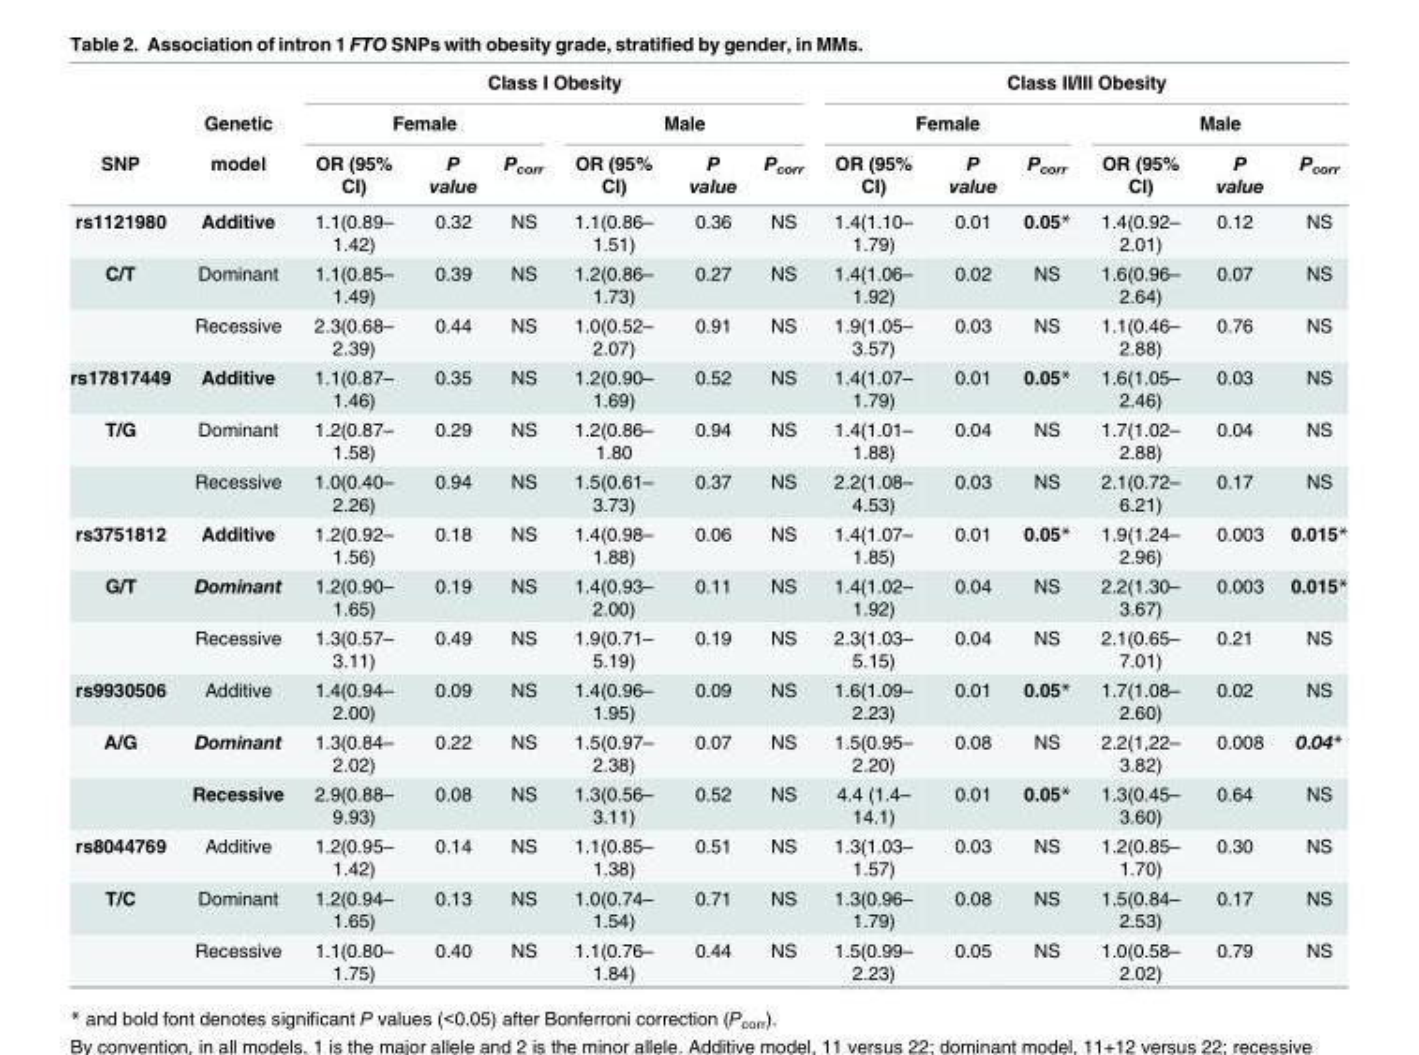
<table><thead><tr><td rowspan="3">SNP</td><td rowspan="3">Genetic model</td><td colspan="6">Class I Obesity</td><td colspan="6">Class II/III Obesity</td></tr><tr><td colspan="3">Female</td><td colspan="3">Male</td><td colspan="3">Female</td><td colspan="3">Male</td></tr><tr><td>OR (95% CI)</td><td>P value</td><td>P<sub>corr</sub></td><td>OR (95% CI)</td><td>P value</td><td>P<sub>corr</sub></td><td>OR (95% CI)</td><td>P value</td><td>P<sub>corr</sub></td><td>OR (95% CI)</td><td>P value</td><td>P<sub>corr</sub></td></tr></thead><tbody><tr><td>rs1121980</td><td>Additive</td><td>1.1(0.89– 1.42)</td><td>0.32</td><td>NS</td><td>1.1(0.86– 1.51)</td><td>0.36</td><td>NS</td><td>1.4(1.10– 1.79)</td><td>0.01</td><td>0.05*</td><td>1.4(0.92– 2.01)</td><td>0.12</td><td>NS</td></tr><tr><td rowspan="2">C/T</td><td>Dominant</td><td>1.1(0.85– 1.49)</td><td>0.39</td><td>NS</td><td>1.2(0.86– 1.73)</td><td>0.27</td><td>NS</td><td>1.4(1.06– 1.92)</td><td>0.02</td><td>NS</td><td>1.6(0.96– 2.64)</td><td>0.07</td><td>NS</td></tr><tr><td>Recessive</td><td>2.3(0.68– 2.39)</td><td>0.44</td><td>NS</td><td>1.0(0.52– 2.07)</td><td>0.91</td><td>NS</td><td>1.9(1.05– 3.57)</td><td>0.03</td><td>NS</td><td>1.1(0.46– 2.88)</td><td>0.76</td><td>NS</td></tr><tr><td>rs17817449</td><td>Additive</td><td>1.1(0.87– 1.46)</td><td>0.35</td><td>NS</td><td>1.2(0.90– 1.69)</td><td>0.52</td><td>NS</td><td>1.4(1.07– 1.79)</td><td>0.01</td><td>0.05*</td><td>1.6(1.05– 2.46)</td><td>0.03</td><td>NS</td></tr><tr><td rowspan="2">T/G</td><td>Dominant</td><td>1.2(0.87– 1.58)</td><td>0.29</td><td>NS</td><td>1.2(0.86– 1.80</td><td>0.94</td><td>NS</td><td>1.4(1.01– 1.88)</td><td>0.04</td><td>NS</td><td>1.7(1.02– 2.88)</td><td>0.04</td><td>NS</td></tr><tr><td>Recessive</td><td>1.0(0.40– 2.26)</td><td>0.94</td><td>NS</td><td>1.5(0.61– 3.73)</td><td>0.37</td><td>NS</td><td>2.2(1.08– 4.53)</td><td>0.03</td><td>NS</td><td>2.1(0.72– 6.21)</td><td>0.17</td><td>NS</td></tr><tr><td>rs3751812</td><td>Additive</td><td>1.2(0.92– 1.56)</td><td>0.18</td><td>NS</td><td>1.4(0.98– 1.88)</td><td>0.06</td><td>NS</td><td>1.4(1.07– 1.85)</td><td>0.01</td><td>0.05*</td><td>1.9(1.24– 2.96)</td><td>0.003</td><td>0.015*</td></tr><tr><td rowspan="2">G/T</td><td>Dominant</td><td>1.2(0.90– 1.65)</td><td>0.19</td><td>NS</td><td>1.4(0.93– 2.00)</td><td>0.11</td><td>NS</td><td>1.4(1.02– 1.92)</td><td>0.04</td><td>NS</td><td>2.2(1.30– 3.67)</td><td>0.003</td><td>0.015*</td></tr><tr><td>Recessive</td><td>1.3(0.57– 3.11)</td><td>0.49</td><td>NS</td><td>1.9(0.71– 5.19)</td><td>0.19</td><td>NS</td><td>2.3(1.03– 5.15)</td><td>0.04</td><td>NS</td><td>2.1(0.65– 7.01)</td><td>0.21</td><td>NS</td></tr><tr><td>rs9930506</td><td>Additive</td><td>1.4(0.94– 2.00)</td><td>0.09</td><td>NS</td><td>1.4(0.96– 1.95)</td><td>0.09</td><td>NS</td><td>1.6(1.09– 2.23)</td><td>0.01</td><td>0.05*</td><td>1.7(1.08– 2.60)</td><td>0.02</td><td>NS</td></tr><tr><td rowspan="2">A/G</td><td>Dominant</td><td>1.3(0.84– 2.02)</td><td>0.22</td><td>NS</td><td>1.5(0.97– 2.38)</td><td>0.07</td><td>NS</td><td>1.5(0.95– 2.20)</td><td>0.08</td><td>NS</td><td>2.2(1,22– 3.82)</td><td>0.008</td><td>0.04*</td></tr><tr><td>Recessive</td><td>2.9(0.88– 9.93)</td><td>0.08</td><td>NS</td><td>1.3(0.56– 3.11)</td><td>0.52</td><td>NS</td><td>4.4 (1.4– 14.1)</td><td>0.01</td><td>0.05*</td><td>1.3(0.45– 3.60)</td><td>0.64</td><td>NS</td></tr><tr><td>rs8044769</td><td>Additive</td><td>1.2(0.95– 1.42)</td><td>0.14</td><td>NS</td><td>1.1(0.85– 1.38)</td><td>0.51</td><td>NS</td><td>1.3(1.03– 1.57)</td><td>0.03</td><td>NS</td><td>1.2(0.85– 1.70)</td><td>0.30</td><td>NS</td></tr><tr><td rowspan="2">T/C</td><td>Dominant</td><td>1.2(0.94– 1.65)</td><td>0.13</td><td>NS</td><td>1.0(0.74– 1.54)</td><td>0.71</td><td>NS</td><td>1.3(0.96– 1.79)</td><td>0.08</td><td>NS</td><td>1.5(0.84– 2.53)</td><td>0.17</td><td>NS</td></tr><tr><td>Recessive</td><td>1.1(0.80– 1.75)</td><td>0.40</td><td>NS</td><td>1.1(0.76– 1.84)</td><td>0.44</td><td>NS</td><td>1.5(0.99– 2.23)</td><td>0.05</td><td>NS</td><td>1.0(0.58– 2.02)</td><td>0.79</td><td>NS</td></tr></tbody></table>